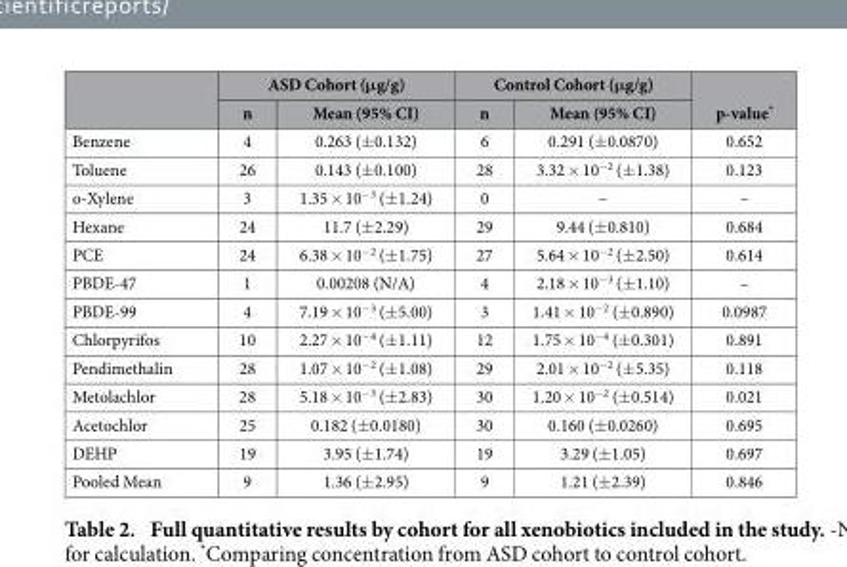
<table><thead><tr><td rowspan="2"></td><td colspan="2">ASD Cohort (μg/g)</td><td colspan="2">Control Cohort (μg/g)</td><td rowspan="2">p-value*</td></tr><tr><td>n</td><td>Mean (95% CI)</td><td>n</td><td>Mean (95% CI)</td></tr></thead><tbody><tr><td>Benzene</td><td>4</td><td>0.263 (± 0.132)</td><td>6</td><td>0.291 (± 0.0870)</td><td>0.652</td></tr><tr><td>Toluene</td><td>26</td><td>0.143 (± 0.100)</td><td>28</td><td>3.32 × 10<sup>−2</sup> (± 1.38)</td><td>0.123</td></tr><tr><td>o-Xylene</td><td>3</td><td>1.35 × 10<sup>−3</sup> (± 1.24)</td><td>0</td><td>–</td><td>–</td></tr><tr><td>Hexane</td><td>24</td><td>11.7 (± 2.29)</td><td>29</td><td>9.44 (± 0.810)</td><td>0.684</td></tr><tr><td>PCE</td><td>24</td><td>6.38 × 10<sup>−2</sup> (± 1.75)</td><td>27</td><td>5.64 × 10<sup>−2</sup> (± 2.50)</td><td>0.614</td></tr><tr><td>PBDE-47</td><td>1</td><td>0.00208 (N/A)</td><td>4</td><td>2.18 × 10<sup>−3</sup> (± 1.10)</td><td>–</td></tr><tr><td>PBDE-99</td><td>4</td><td>7.19 × 10<sup>−3</sup> (± 5.00)</td><td>3</td><td>1.41 × 10<sup>−2</sup> (± 0.890)</td><td>0.0987</td></tr><tr><td>Chlorpyrifos</td><td>10</td><td>2.27 × 10<sup>−4</sup> (± 1.11)</td><td>12</td><td>1.75 × 10<sup>−4</sup> (± 0.301)</td><td>0.891</td></tr><tr><td>Pendimethalin</td><td>28</td><td>1.07 × 10<sup>−2</sup> (± 1.08)</td><td>29</td><td>2.01 × 10<sup>−2</sup> (± 5.35)</td><td>0.118</td></tr><tr><td>Metolachlor</td><td>28</td><td>5.18 × 10<sup>−3</sup> (± 2.83)</td><td>30</td><td>1.20 × 10<sup>−2</sup> (± 0.514)</td><td>0.021</td></tr><tr><td>Acetochlor</td><td>25</td><td>0.182 (± 0.0180)</td><td>30</td><td>0.160 (± 0.0260)</td><td>0.695</td></tr><tr><td>DEHP</td><td>19</td><td>3.95 (± 1.74)</td><td>19</td><td>3.29 (± 1.05)</td><td>0.697</td></tr><tr><td>Pooled Mean</td><td>9</td><td>1.36 (± 2.95)</td><td>9</td><td>1.21 (± 2.39)</td><td>0.846</td></tr></tbody></table>